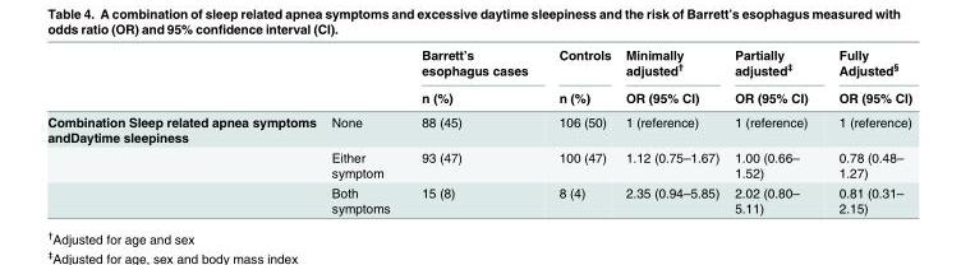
<table><thead><tr><td rowspan="2"></td><td rowspan="2"></td><td rowspan="2">Barrett’s esophagus cases n (%)</td><td rowspan="2">Controls n (%)</td><td rowspan="2">Minimally adjusted<sup>†</sup> OR (95% CI)</td><td rowspan="2">Partially adjusted<sup>‡</sup> OR (95% CI)</td><td rowspan="2">Fully Adjusted<sup>§</sup> OR (95% CI)</td></tr><tr></tr></thead><tbody><tr><td rowspan="3">Combination Sleep related apnea symptoms andDaytime sleepiness</td><td>None</td><td>88 (45)</td><td>106 (50)</td><td>1 (reference)</td><td>1 (reference)</td><td>1 (reference)</td></tr><tr><td>Either symptom</td><td>93 (47)</td><td>100 (47)</td><td>1.12 (0.75–1.67)</td><td>1.00 (0.66– 1.52)</td><td>0.78 (0.48– 1.27)</td></tr><tr><td>Both symptoms</td><td>15 (8)</td><td>8 (4)</td><td>2.35 (0.94–5.85)</td><td>2.02 (0.80– 5.11)</td><td>0.81 (0.31– 2.15)</td></tr></tbody></table>